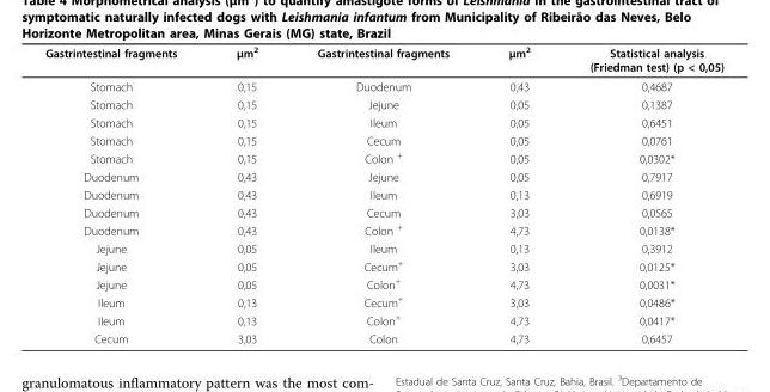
<table><thead><tr><td>Gastrintestinal fragments</td><td>μm<sup>2</sup></td><td>Gastrintestinal fragments</td><td>μm<sup>2</sup></td><td>Statistical analysis (Friedman test) (p &lt; 0,05)</td></tr></thead><tbody><tr><td>Stomach</td><td>0,15</td><td>Duodenum</td><td>0,43</td><td>0,4687</td></tr><tr><td>Stomach</td><td>0,15</td><td>Jejune</td><td>0,05</td><td>0,1387</td></tr><tr><td>Stomach</td><td>0,15</td><td>Ileum</td><td>0,05</td><td>0,6451</td></tr><tr><td>Stomach</td><td>0,15</td><td>Cecum</td><td>0,05</td><td>0,0761</td></tr><tr><td>Stomach</td><td>0,15</td><td>Colon <sup>+</sup></td><td>0,05</td><td>0,0302*</td></tr><tr><td>Duodenum</td><td>0,43</td><td>Jejune</td><td>0,05</td><td>0,7917</td></tr><tr><td>Duodenum</td><td>0,43</td><td>Ileum</td><td>0,13</td><td>0,6919</td></tr><tr><td>Duodenum</td><td>0,43</td><td>Cecum</td><td>3,03</td><td>0,0565</td></tr><tr><td>Duodenum</td><td>0,43</td><td>Colon <sup>+</sup></td><td>4,73</td><td>0,0138*</td></tr><tr><td>Jejune</td><td>0,05</td><td>Ileum</td><td>0,13</td><td>0,3912</td></tr><tr><td>Jejune</td><td>0,05</td><td>Cecum<sup>+</sup></td><td>3,03</td><td>0,0125*</td></tr><tr><td>Jejune</td><td>0,05</td><td>Colon<sup>+</sup></td><td>4,73</td><td>0,0031*</td></tr><tr><td>Ileum</td><td>0,13</td><td>Cecum<sup>+</sup></td><td>3,03</td><td>0,0486*</td></tr><tr><td>Ileum</td><td>0,13</td><td>Colon<sup>+</sup></td><td>4,73</td><td>0,0417*</td></tr><tr><td>Cecum</td><td>3,03</td><td>Colon</td><td>4,73</td><td>0,6457</td></tr></tbody></table>